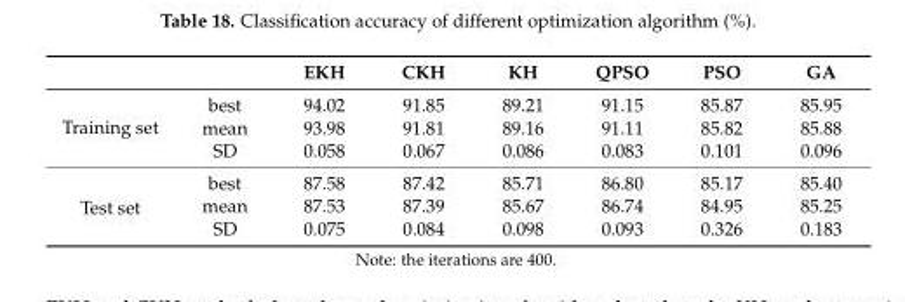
<table><thead><tr><td></td><td></td><td>EKH</td><td>CKH</td><td>KH</td><td>QPSO</td><td>PSO</td><td>GA</td></tr></thead><tbody><tr><td rowspan="3">Training set</td><td>best</td><td>94.02</td><td>91.85</td><td>89.21</td><td>91.15</td><td>85.87</td><td>85.95</td></tr><tr><td>mean</td><td>93.98</td><td>91.81</td><td>89.16</td><td>91.11</td><td>85.82</td><td>85.88</td></tr><tr><td>SD</td><td>0.058</td><td>0.067</td><td>0.086</td><td>0.083</td><td>0.101</td><td>0.096</td></tr><tr><td rowspan="3">Test set</td><td>best</td><td>87.58</td><td>87.42</td><td>85.71</td><td>86.80</td><td>85.17</td><td>85.40</td></tr><tr><td>mean</td><td>87.53</td><td>87.39</td><td>85.67</td><td>86.74</td><td>84.95</td><td>85.25</td></tr><tr><td>SD</td><td>0.075</td><td>0.084</td><td>0.098</td><td>0.093</td><td>0.326</td><td>0.183</td></tr></tbody></table>